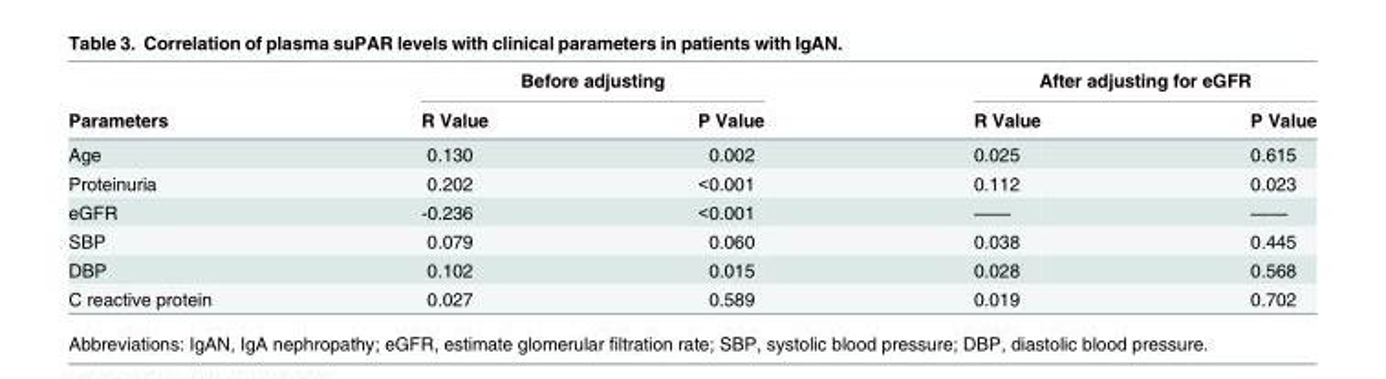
<table><thead><tr><td rowspan="2">Parameters</td><td colspan="2">Before adjusting</td><td colspan="2">After adjusting for eGFR</td></tr><tr><td>R Value</td><td>P Value</td><td>R Value</td><td>P Value</td></tr></thead><tbody><tr><td>Age</td><td>0.130</td><td>0.002</td><td>0.025</td><td>0.615</td></tr><tr><td>Proteinuria</td><td>0.202</td><td>&lt;0.001</td><td>0.112</td><td>0.023</td></tr><tr><td>eGFR</td><td>-0.236</td><td>&lt;0.001</td><td>——</td><td>——</td></tr><tr><td>SBP</td><td>0.079</td><td>0.060</td><td>0.038</td><td>0.445</td></tr><tr><td>DBP</td><td>0.102</td><td>0.015</td><td>0.028</td><td>0.568</td></tr><tr><td>C reactive protein</td><td>0.027</td><td>0.589</td><td>0.019</td><td>0.702</td></tr></tbody></table>